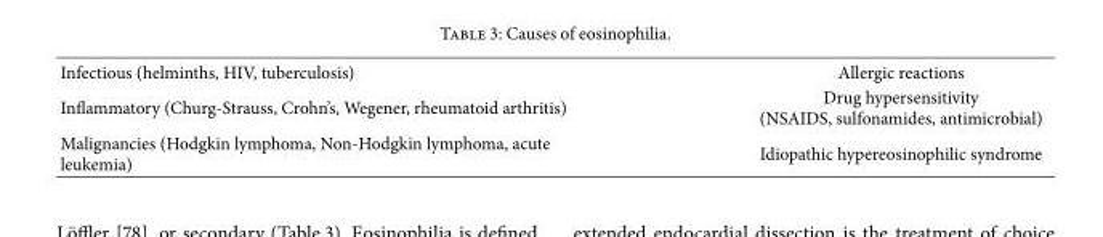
<table><tbody><tr><td>Infectious (helminths, HIV, tuberculosis)</td><td>Allergic reactions</td></tr><tr><td>Inflammatory (Churg-Strauss, Crohn’s, Wegener, rheumatoid arthritis)</td><td>Drug hypersensitivity (NSAIDS, sulfonamides, antimicrobial)</td></tr><tr><td>Malignancies (Hodgkin lymphoma, Non-Hodgkin lymphoma, acute leukemia)</td><td>Idiopathic hypereosinophilic syndrome</td></tr></tbody></table>